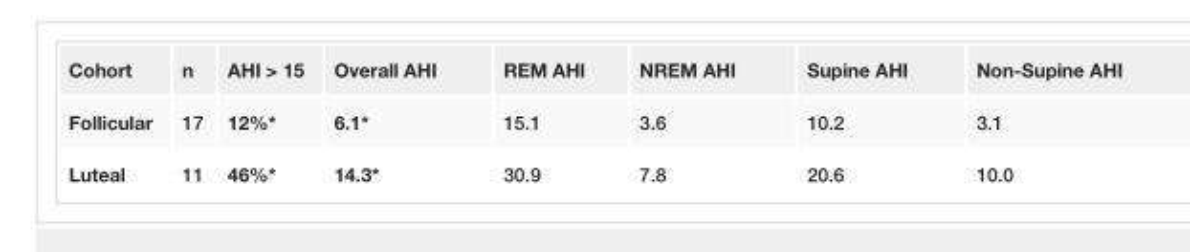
<table><tbody><tr><td>Cohort</td><td>n</td><td>AHI &gt; 15</td><td>Overall AHI</td><td>REM AHI</td><td>NREM AHI</td><td>Supine AHI</td><td>Non-Supine AHI</td></tr><tr><td>Follicular</td><td>17</td><td>12%*</td><td>6.1*</td><td>15.1</td><td>3.6</td><td>10.2</td><td>3.1</td></tr><tr><td>Luteal</td><td>11</td><td>46%*</td><td>14.3*</td><td>30.9</td><td>7.8</td><td>20.6</td><td>10.0</td></tr></tbody></table>